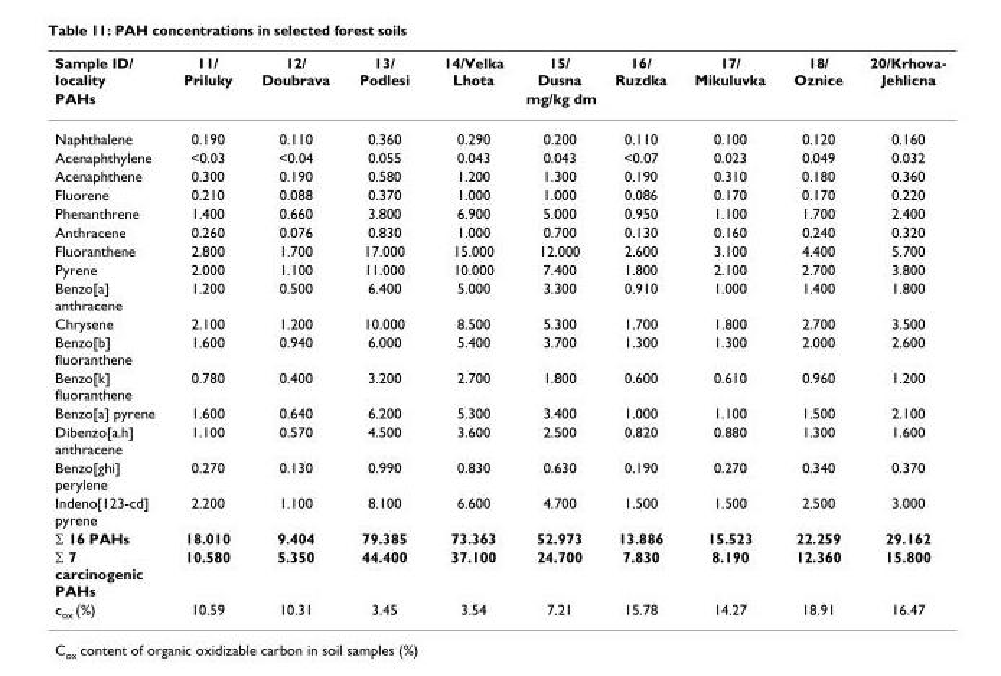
<table><thead><tr><td rowspan="2">Sample ID/ locality PAHs</td><td>11/ Priluky</td><td>12/ Doubrava</td><td>13/ Podlesi</td><td>14/Velka Lhota</td><td>15/ Dusna</td><td>16/ Ruzdka</td><td>17/ Mikuluvka</td><td>18/ Oznice</td><td>20/Krhova- Jehlicna</td></tr><tr><td colspan="9">mg/kg dm</td></tr></thead><tbody><tr><td>Naphthalene</td><td>0.190</td><td>0.110</td><td>0.360</td><td>0.290</td><td>0.200</td><td>0.110</td><td>0.100</td><td>0.120</td><td>0.160</td></tr><tr><td>Acenaphthylene</td><td>&lt;0.03</td><td>&lt;0.04</td><td>0.055</td><td>0.043</td><td>0.043</td><td>&lt;0.07</td><td>0.023</td><td>0.049</td><td>0.032</td></tr><tr><td>Acenaphthene</td><td>0.300</td><td>0.190</td><td>0.580</td><td>1.200</td><td>1.300</td><td>0.190</td><td>0.310</td><td>0.180</td><td>0.360</td></tr><tr><td>Fluorene</td><td>0.210</td><td>0.088</td><td>0.370</td><td>1.000</td><td>1.000</td><td>0.086</td><td>0.170</td><td>0.170</td><td>0.220</td></tr><tr><td>Phenanthrene</td><td>1.400</td><td>0.660</td><td>3.800</td><td>6.900</td><td>5.000</td><td>0.950</td><td>1.100</td><td>1.700</td><td>2.400</td></tr><tr><td>Anthracene</td><td>0.260</td><td>0.076</td><td>0.830</td><td>1.000</td><td>0.700</td><td>0.130</td><td>0.160</td><td>0.240</td><td>0.320</td></tr><tr><td>Fluoranthene</td><td>2.800</td><td>1.700</td><td>17.000</td><td>15.000</td><td>12.000</td><td>2.600</td><td>3.100</td><td>4.400</td><td>5.700</td></tr><tr><td>Pyrene</td><td>2.000</td><td>1.100</td><td>11.000</td><td>10.000</td><td>7.400</td><td>1.800</td><td>2.100</td><td>2.700</td><td>3.800</td></tr><tr><td>Benzo[a] anthracene</td><td>1.200</td><td>0.500</td><td>6.400</td><td>5.000</td><td>3.300</td><td>0.910</td><td>1.000</td><td>1.400</td><td>1.800</td></tr><tr><td>Chrysene</td><td>2.100</td><td>1.200</td><td>10.000</td><td>8.500</td><td>5.300</td><td>1.700</td><td>1.800</td><td>2.700</td><td>3.500</td></tr><tr><td>Benzo[b] fluoranthene</td><td>1.600</td><td>0.940</td><td>6.000</td><td>5.400</td><td>3.700</td><td>1.300</td><td>1.300</td><td>2.000</td><td>2.600</td></tr><tr><td>Benzo[k] fluoranthene</td><td>0.780</td><td>0.400</td><td>3.200</td><td>2.700</td><td>1.800</td><td>0.600</td><td>0.610</td><td>0.960</td><td>1.200</td></tr><tr><td>Benzo[a] pyrene</td><td>1.600</td><td>0.640</td><td>6.200</td><td>5.300</td><td>3.400</td><td>1.000</td><td>1.100</td><td>1.500</td><td>2.100</td></tr><tr><td>Dibenzo[a.h] anthracene</td><td>1.100</td><td>0.570</td><td>4.500</td><td>3.600</td><td>2.500</td><td>0.820</td><td>0.880</td><td>1.300</td><td>1.600</td></tr><tr><td>Benzo[ghi] perylene</td><td>0.270</td><td>0.130</td><td>0.990</td><td>0.830</td><td>0.630</td><td>0.190</td><td>0.270</td><td>0.340</td><td>0.370</td></tr><tr><td>Indeno[123-cd] pyrene</td><td>2.200</td><td>1.100</td><td>8.100</td><td>6.600</td><td>4.700</td><td>1.500</td><td>1.500</td><td>2.500</td><td>3.000</td></tr><tr><td>Σ 16 PAHs</td><td>18.010</td><td>9.404</td><td>79.385</td><td>73.363</td><td>52.973</td><td>13.886</td><td>15.523</td><td>22.259</td><td>29.162</td></tr><tr><td>Σ 7 carcinogenic PAHs</td><td>10.580</td><td>5.350</td><td>44.400</td><td>37.100</td><td>24.700</td><td>7.830</td><td>8.190</td><td>12.360</td><td>15.800</td></tr><tr><td>c<sub>ox</sub> (%)</td><td>10.59</td><td>10.31</td><td>3.45</td><td>3.54</td><td>7.21</td><td>15.78</td><td>14.27</td><td>18.91</td><td>16.47</td></tr></tbody></table>